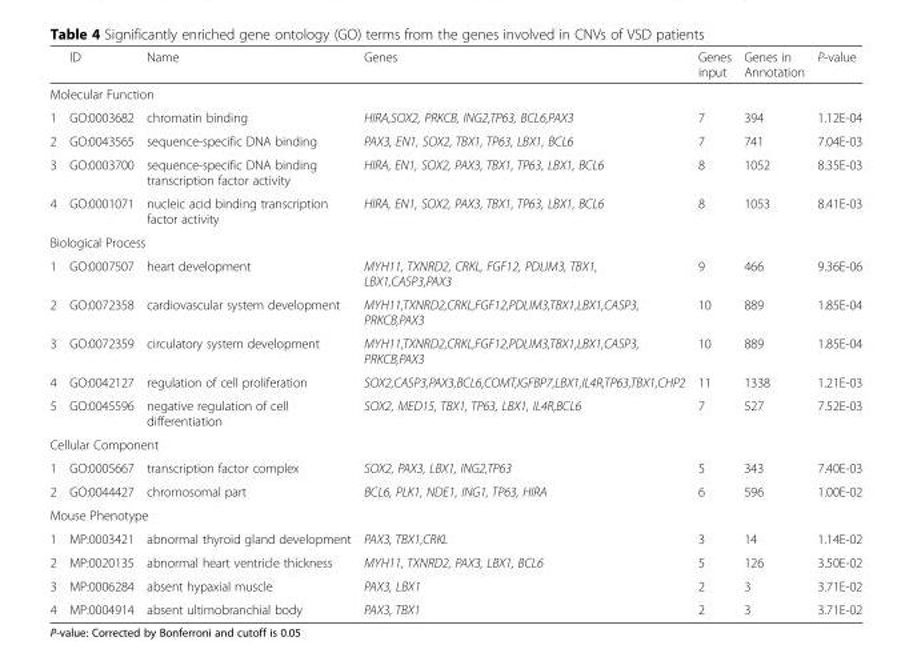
<table><thead><tr><td></td><td>ID</td><td>Name</td><td>Genes</td><td>Genes input</td><td>Genes in Annotation</td><td>P-value</td></tr></thead><tbody><tr><td colspan="7">Molecular Function</td></tr><tr><td>1</td><td>GO:0003682</td><td>chromatin binding</td><td>HIRA,SOX2, PRKCB, ING2,TP63, BCL6,PAX3</td><td>7</td><td>394</td><td>1.12E-04</td></tr><tr><td>2</td><td>GO:0043565</td><td>sequence-specific DNA binding</td><td>PAX3, EN1, SOX2, TBX1, TP63, LBX1, BCL6</td><td>7</td><td>741</td><td>7.04E-03</td></tr><tr><td>3</td><td>GO:0003700</td><td>sequence-specific DNA binding transcription factor activity</td><td>HIRA, EN1, SOX2, PAX3, TBX1, TP63, LBX1, BCL6</td><td>8</td><td>1052</td><td>8.35E-03</td></tr><tr><td>4</td><td>GO:0001071</td><td>nucleic acid binding transcription factor activity</td><td>HIRA, EN1, SOX2, PAX3, TBX1, TP63, LBX1, BCL6</td><td>8</td><td>1053</td><td>8.41E-03</td></tr><tr><td colspan="7">Biological Process</td></tr><tr><td>1</td><td>GO:0007507</td><td>heart development</td><td>MYH11, TXNRD2, CRKL, FGF12, PDLIM3, TBX1, LBX1,CASP3,PAX3</td><td>9</td><td>466</td><td>9.36E-06</td></tr><tr><td>2</td><td>GO:0072358</td><td>cardiovascular system development</td><td>MYH11,TXNRD2,CRKL,FGF12,PDLIM3,TBX1,LBX1,CASP3, PRKCB,PAX3</td><td>10</td><td>889</td><td>1.85E-04</td></tr><tr><td>3</td><td>GO:0072359</td><td>circulatory system development</td><td>MYH11,TXNRD2,CRKL,FGF12,PDLIM3,TBX1,LBX1,CASP3, PRKCB,PAX3</td><td>10</td><td>889</td><td>1.85E-04</td></tr><tr><td>4</td><td>GO:0042127</td><td>regulation of cell proliferation</td><td>SOX2,CASP3,PAX3,BCL6,COMT,IGFBP7,LBX1,IL4R,TP63,TBX1,CHP2</td><td>11</td><td>1338</td><td>1.21E-03</td></tr><tr><td>5</td><td>GO:0045596</td><td>negative regulation of cell differentiation</td><td>SOX2, MED15, TBX1, TP63, LBX1, IL4R,BCL6</td><td>7</td><td>527</td><td>7.52E-03</td></tr><tr><td colspan="7">Cellular Component</td></tr><tr><td>1</td><td>GO:0005667</td><td>transcription factor complex</td><td>SOX2, PAX3, LBX1, ING2,TP63</td><td>5</td><td>343</td><td>7.40E-03</td></tr><tr><td>2</td><td>GO:0044427</td><td>chromosomal part</td><td>BCL6, PLK1, NDE1, ING1, TP63, HIRA</td><td>6</td><td>596</td><td>1.00E-02</td></tr><tr><td colspan="7">Mouse Phenotype</td></tr><tr><td>1</td><td>MP:0003421</td><td>abnormal thyroid gland development</td><td>PAX3, TBX1,CRKL</td><td>3</td><td>14</td><td>1.14E-02</td></tr><tr><td>2</td><td>MP:0020135</td><td>abnormal heart ventricle thickness</td><td>MYH11, TXNRD2, PAX3, LBX1, BCL6</td><td>5</td><td>126</td><td>3.50E-02</td></tr><tr><td>3</td><td>MP:0006284</td><td>absent hypaxial muscle</td><td>PAX3, LBX1</td><td>2</td><td>3</td><td>3.71E-02</td></tr><tr><td>4</td><td>MP:0004914</td><td>absent ultimobranchial body</td><td>PAX3, TBX1</td><td>2</td><td>3</td><td>3.71E-02</td></tr></tbody></table>